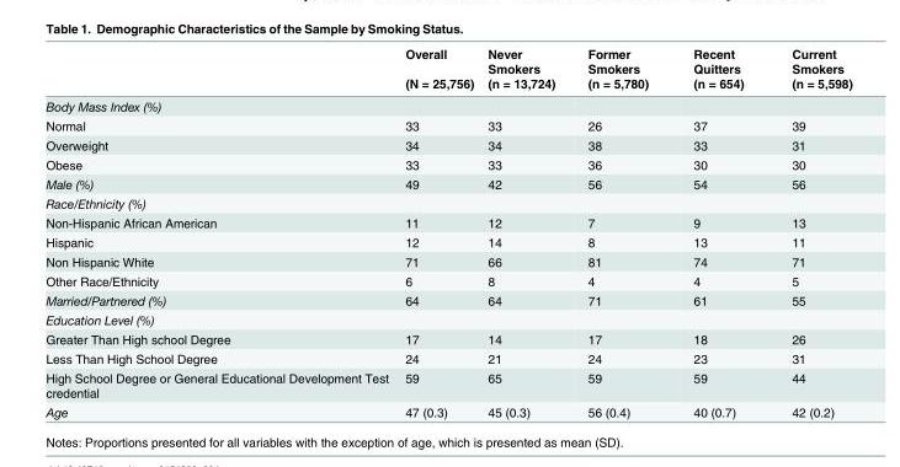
<table><thead><tr><td rowspan="2"></td><td rowspan="2">Overall (N = 25,756)</td><td rowspan="2">Never Smokers (n = 13,724)</td><td rowspan="2">Former Smokers (n = 5,780)</td><td rowspan="2">Recent Quitters (n = 654)</td><td rowspan="2">Current Smokers (n = 5,598)</td></tr><tr></tr></thead><tbody><tr><td colspan="6">Body Mass Index (%)</td></tr><tr><td>Normal</td><td>33</td><td>33</td><td>26</td><td>37</td><td>39</td></tr><tr><td>Overweight</td><td>34</td><td>34</td><td>38</td><td>33</td><td>31</td></tr><tr><td>Obese</td><td>33</td><td>33</td><td>36</td><td>30</td><td>30</td></tr><tr><td>Male (%)</td><td>49</td><td>42</td><td>56</td><td>54</td><td>56</td></tr><tr><td colspan="6">Race/Ethnicity (%)</td></tr><tr><td>Non-Hispanic African American</td><td>11</td><td>12</td><td>7</td><td>9</td><td>13</td></tr><tr><td>Hispanic</td><td>12</td><td>14</td><td>8</td><td>13</td><td>11</td></tr><tr><td>Non Hispanic White</td><td>71</td><td>66</td><td>81</td><td>74</td><td>71</td></tr><tr><td>Other Race/Ethnicity</td><td>6</td><td>8</td><td>4</td><td>4</td><td>5</td></tr><tr><td>Married/Partnered (%)</td><td>64</td><td>64</td><td>71</td><td>61</td><td>55</td></tr><tr><td colspan="6">Education Level (%)</td></tr><tr><td>Greater Than High school Degree</td><td>17</td><td>14</td><td>17</td><td>18</td><td>26</td></tr><tr><td>Less Than High School Degree</td><td>24</td><td>21</td><td>24</td><td>23</td><td>31</td></tr><tr><td>High School Degree or General Educational Development Test credential</td><td>59</td><td>65</td><td>59</td><td>59</td><td>44</td></tr><tr><td>Age</td><td>47 (0.3)</td><td>45 (0.3)</td><td>56 (0.4)</td><td>40 (0.7)</td><td>42 (0.2)</td></tr></tbody></table>